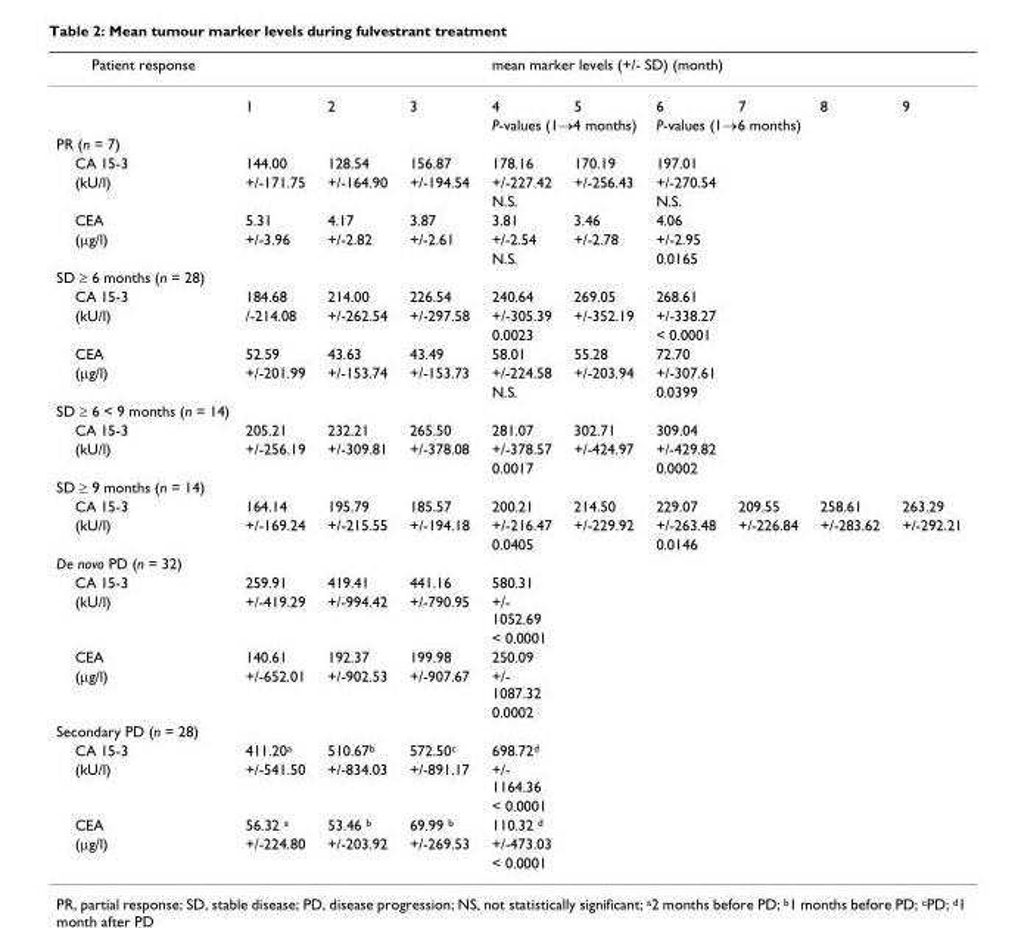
<table><thead><tr><td rowspan="2">Patient response</td><td colspan="9">mean marker levels (+/- SD) (month)</td></tr><tr><td>1</td><td>2</td><td>3</td><td>4</td><td>5</td><td>6</td><td>7</td><td>8</td><td>9</td></tr></thead><tbody><tr><td></td><td></td><td></td><td></td><td colspan="2">P-values (1→4 months)</td><td colspan="2">P-values (1→6 months)</td><td></td><td></td></tr><tr><td colspan="10">PR (n = 7)</td></tr><tr><td>CA 15-3</td><td>144.00</td><td>128.54</td><td>156.87</td><td>178.16</td><td>170.19</td><td>197.01</td><td></td><td></td><td></td></tr><tr><td rowspan="2">(kU/l)</td><td>+/-171.75</td><td>+/-164.90</td><td>+/-194.54</td><td>+/-227.42</td><td>+/-256.43</td><td>+/-270.54</td><td></td><td></td><td></td></tr><tr><td></td><td></td><td></td><td>N.S.</td><td></td><td>N.S.</td><td></td><td></td><td></td></tr><tr><td>CEA</td><td>5.31</td><td>4.17</td><td>3.87</td><td>3.81</td><td>3.46</td><td>4.06</td><td></td><td></td><td></td></tr><tr><td rowspan="2">(µg/l)</td><td>+/-3.96</td><td>+/-2.82</td><td>+/-2.61</td><td>+/-2.54</td><td>+/-2.78</td><td>+/-2.95</td><td></td><td></td><td></td></tr><tr><td></td><td></td><td></td><td>N.S.</td><td></td><td>0.0165</td><td></td><td></td><td></td></tr><tr><td colspan="10">SD ≥ 6 months (n = 28)</td></tr><tr><td>CA 15-3</td><td>184.68</td><td>214.00</td><td>226.54</td><td>240.64</td><td>269.05</td><td>268.61</td><td></td><td></td><td></td></tr><tr><td rowspan="2">(kU/l)</td><td>/-214.08</td><td>+/-262.54</td><td>+/-297.58</td><td>+/-305.39</td><td>+/-352.19</td><td>+/-338.27</td><td></td><td></td><td></td></tr><tr><td></td><td></td><td></td><td>0.0023</td><td></td><td>&lt; 0.0001</td><td></td><td></td><td></td></tr><tr><td>CEA</td><td>52.59</td><td>43.63</td><td>43.49</td><td>58.01</td><td>55.28</td><td>72.70</td><td></td><td></td><td></td></tr><tr><td rowspan="2">(µg/l)</td><td>+/-201.99</td><td>+/-153.74</td><td>+/-153.73</td><td>+/-224.58</td><td>+/-203.94</td><td>+/-307.61</td><td></td><td></td><td></td></tr><tr><td></td><td></td><td></td><td>N.S.</td><td></td><td>0.0399</td><td></td><td></td><td></td></tr><tr><td colspan="10">SD ≥ 6 &lt; 9 months (n = 14)</td></tr><tr><td>CA 15-3</td><td>205.21</td><td>232.21</td><td>265.50</td><td>281.07</td><td>302.71</td><td>309.04</td><td></td><td></td><td></td></tr><tr><td rowspan="2">(kU/l)</td><td>+/-256.19</td><td>+/-309.81</td><td>+/-378.08</td><td>+/-378.57</td><td>+/-424.97</td><td>+/-429.82</td><td></td><td></td><td></td></tr><tr><td></td><td></td><td></td><td>0.0017</td><td></td><td>0.0002</td><td></td><td></td><td></td></tr><tr><td colspan="10">SD ≥ 9 months (n = 14)</td></tr><tr><td>CA 15-3</td><td>164.14</td><td>195.79</td><td>185.57</td><td>200.21</td><td>214.50</td><td>229.07</td><td>209.55</td><td>258.61</td><td>263.29</td></tr><tr><td rowspan="2">(kU/l)</td><td>+/-169.24</td><td>+/-215.55</td><td>+/-194.18</td><td>+/-216.47</td><td>+/-229.92</td><td>+/-263.48</td><td>+/-226.84</td><td>+/-283.62</td><td>+/-292.21</td></tr><tr><td></td><td></td><td></td><td>0.0405</td><td></td><td>0.0146</td><td></td><td></td><td></td></tr><tr><td colspan="10">De novo PD (n = 32)</td></tr><tr><td>CA 15-3</td><td>259.91</td><td>419.41</td><td>441.16</td><td>580.31</td><td></td><td></td><td></td><td></td><td></td></tr><tr><td rowspan="2">(kU/l)</td><td>+/-419.29</td><td>+/-994.42</td><td>+/-790.95</td><td>+/- 1052.69</td><td></td><td></td><td></td><td></td><td></td></tr><tr><td></td><td></td><td></td><td>&lt; 0.0001</td><td></td><td></td><td></td><td></td><td></td></tr><tr><td>CEA</td><td>140.61</td><td>192.37</td><td>199.98</td><td>250.09</td><td></td><td></td><td></td><td></td><td></td></tr><tr><td rowspan="2">(µg/l)</td><td>+/-652.01</td><td>+/-902.53</td><td>+/-907.67</td><td>+/- 1087.32</td><td></td><td></td><td></td><td></td><td></td></tr><tr><td></td><td></td><td></td><td>0.0002</td><td></td><td></td><td></td><td></td><td></td></tr><tr><td colspan="10">Secondary PD (n = 28)</td></tr><tr><td>CA 15-3</td><td>411.20a</td><td>510.67b</td><td>572.50c</td><td>698.72d</td><td></td><td></td><td></td><td></td><td></td></tr><tr><td rowspan="2">(kU/l)</td><td>+/-541.50</td><td>+/-834.03</td><td>+/-891.17</td><td>+/- 1164.36</td><td></td><td></td><td></td><td></td><td></td></tr><tr><td></td><td></td><td></td><td>&lt; 0.0001</td><td></td><td></td><td></td><td></td><td></td></tr><tr><td>CEA</td><td>56.32 a</td><td>53.46 b</td><td>69.99 b</td><td>110.32 d</td><td></td><td></td><td></td><td></td><td></td></tr><tr><td rowspan="2">(µg/l)</td><td>+/-224.80</td><td>+/-203.92</td><td>+/-269.53</td><td>+/-473.03</td><td></td><td></td><td></td><td></td><td></td></tr><tr><td></td><td></td><td></td><td>&lt; 0.0001</td><td></td><td></td><td></td><td></td><td></td></tr></tbody></table>